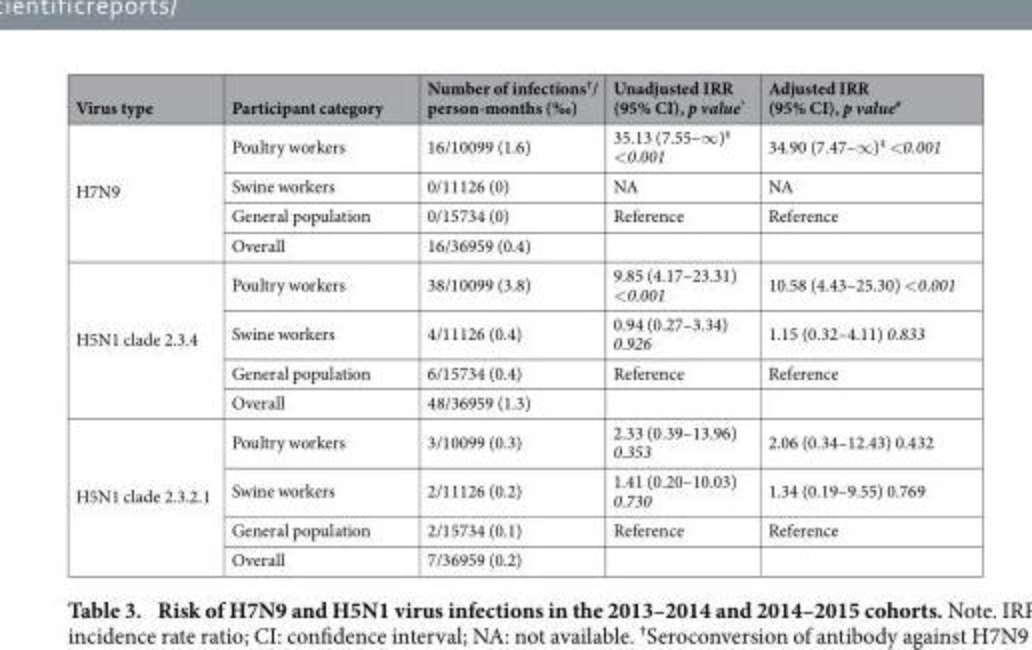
<table><thead><tr><td>Virus type</td><td>Participant category</td><td>Number of infections<sup>†</sup>/ person-months (‰)</td><td>Unadjusted IRR (95% CI), p value*</td><td>Adjusted IRR (95% CI), p value<sup>#</sup></td></tr></thead><tbody><tr><td rowspan="4">H7N9</td><td>Poultry workers</td><td>16/10099 (1.6)</td><td>35.13 (7.55–∞ )<sup>‡</sup> &lt; 0.001</td><td>34.90 (7.47–∞ )<sup>‡</sup> &lt; 0.001</td></tr><tr><td>Swine workers</td><td>0/11126 (0)</td><td>NA</td><td>NA</td></tr><tr><td>General population</td><td>0/15734 (0)</td><td>Reference</td><td>Reference</td></tr><tr><td>Overall</td><td>16/36959 (0.4)</td><td></td><td></td></tr><tr><td rowspan="4">H5N1 clade 2.3.4</td><td>Poultry workers</td><td>38/10099 (3.8)</td><td>9.85 (4.17–23.31) &lt; 0.001</td><td>10.58 (4.43–25.30) &lt; 0.001</td></tr><tr><td>Swine workers</td><td>4/11126 (0.4)</td><td>0.94 (0.27–3.34) 0.926</td><td>1.15 (0.32–4.11) 0.833</td></tr><tr><td>General population</td><td>6/15734 (0.4)</td><td>Reference</td><td>Reference</td></tr><tr><td>Overall</td><td>48/36959 (1.3)</td><td></td><td></td></tr><tr><td rowspan="4">H5N1 clade 2.3.2.1</td><td>Poultry workers</td><td>3/10099 (0.3)</td><td>2.33 (0.39–13.96) 0.353</td><td>2.06 (0.34–12.43) 0.432</td></tr><tr><td>Swine workers</td><td>2/11126 (0.2)</td><td>1.41 (0.20–10.03) 0.730</td><td>1.34 (0.19–9.55) 0.769</td></tr><tr><td>General population</td><td>2/15734 (0.1)</td><td>Reference</td><td>Reference</td></tr><tr><td>Overall</td><td>7/36959 (0.2)</td><td></td><td></td></tr></tbody></table>